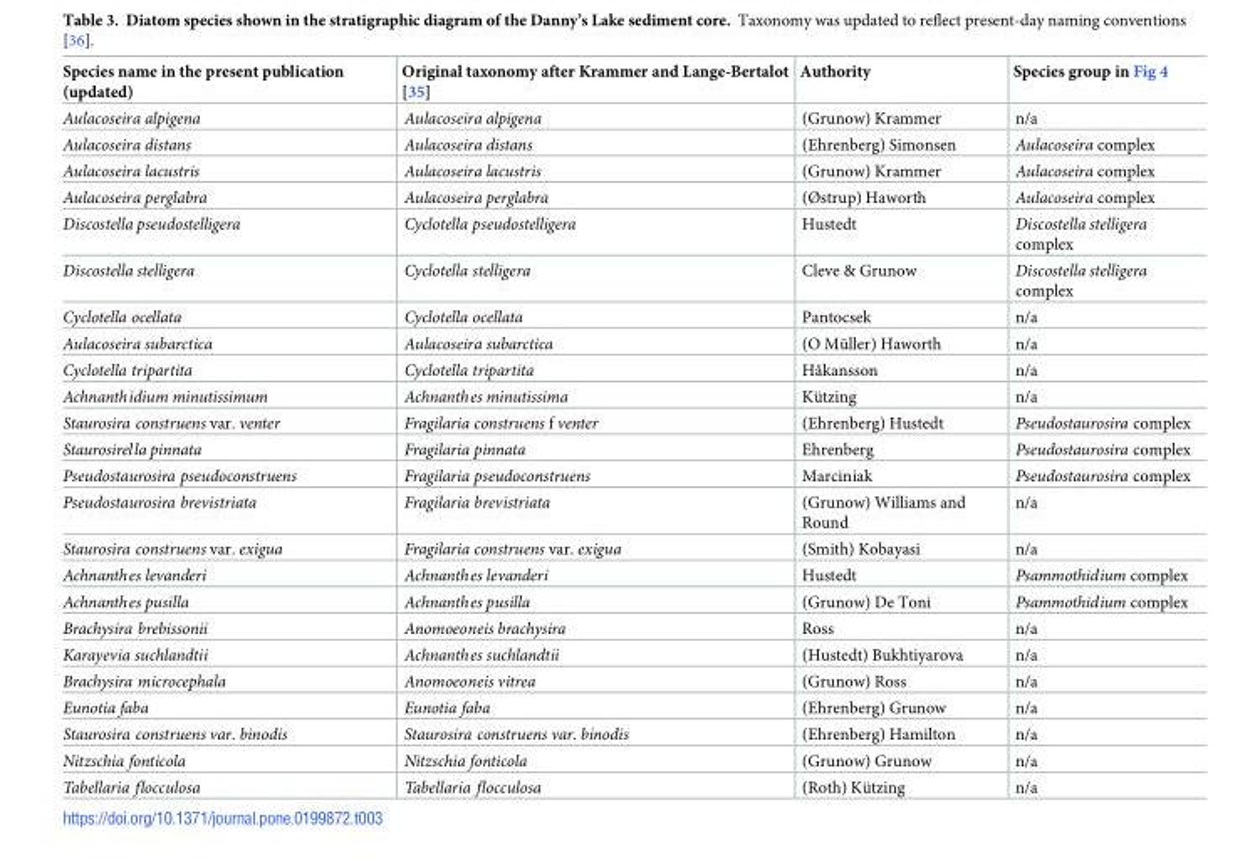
<table><thead><tr><td>Species name in the present publication (updated)</td><td>Original taxonomy after Krammer and Lange-Bertalot [35]</td><td>Authority</td><td>Species group in Fig 4</td></tr></thead><tbody><tr><td>Aulacoseira alpigena</td><td>Aulacoseira alpigena</td><td>(Grunow) Krammer</td><td>n/a</td></tr><tr><td>Aulacoseira distans</td><td>Aulacoseira distans</td><td>(Ehrenberg) Simonsen</td><td>Aulacoseira complex</td></tr><tr><td>Aulacoseira lacustris</td><td>Aulacoseira lacustris</td><td>(Grunow) Krammer</td><td>Aulacoseira complex</td></tr><tr><td>Aulacoseira perglabra</td><td>Aulacoseira perglabra</td><td>(Østrup) Haworth</td><td>Aulacoseira complex</td></tr><tr><td>Discostella pseudostelligera</td><td>Cyclotella pseudostelligera</td><td>Hustedt</td><td>Discostella stelligera complex</td></tr><tr><td>Discostella stelligera</td><td>Cyclotella stelligera</td><td>Cleve &amp; Grunow</td><td>Discostella stelligera complex</td></tr><tr><td>Cyclotella ocellata</td><td>Cyclotella ocellata</td><td>Pantocsek</td><td>n/a</td></tr><tr><td>Aulacoseira subarctica</td><td>Aulacoseira subarctica</td><td>(O Mu¨ller) Haworth</td><td>n/a</td></tr><tr><td>Cyclotella tripartita</td><td>Cyclotella tripartita</td><td>Håkansson</td><td>n/a</td></tr><tr><td>Achnanthidium minutissimum</td><td>Achnanthes minutissima</td><td>Ku¨tzing</td><td>n/a</td></tr><tr><td>Staurosira construens var. venter</td><td>Fragilaria construens f venter</td><td>(Ehrenberg) Hustedt</td><td>Pseudostaurosira complex</td></tr><tr><td>Staurosirella pinnata</td><td>Fragilaria pinnata</td><td>Ehrenberg</td><td>Pseudostaurosira complex</td></tr><tr><td>Pseudostaurosira pseudoconstruens</td><td>Fragilaria pseudoconstruens</td><td>Marciniak</td><td>Pseudostaurosira complex</td></tr><tr><td>Pseudostaurosira brevistriata</td><td>Fragilaria brevistriata</td><td>(Grunow) Williams and Round</td><td>n/a</td></tr><tr><td>Staurosira construens var. exigua</td><td>Fragilaria construens var. exigua</td><td>(Smith) Kobayasi</td><td>n/a</td></tr><tr><td>Achnanthes levanderi</td><td>Achnanthes levanderi</td><td>Hustedt</td><td>Psammothidium complex</td></tr><tr><td>Achnanthes pusilla</td><td>Achnanthes pusilla</td><td>(Grunow) De Toni</td><td>Psammothidium complex</td></tr><tr><td>Brachysira brebissonii</td><td>Anomoeoneis brachysira</td><td>Ross</td><td>n/a</td></tr><tr><td>Karayevia suchlandtii</td><td>Achnanthes suchlandtii</td><td>(Hustedt) Bukhtiyarova</td><td>n/a</td></tr><tr><td>Brachysira microcephala</td><td>Anomoeoneis vitrea</td><td>(Grunow) Ross</td><td>n/a</td></tr><tr><td>Eunotia faba</td><td>Eunotia faba</td><td>(Ehrenberg) Grunow</td><td>n/a</td></tr><tr><td>Staurosira construens var. binodis</td><td>Staurosira construens var. binodis</td><td>(Ehrenberg) Hamilton</td><td>n/a</td></tr><tr><td>Nitzschia fonticola</td><td>Nitzschia fonticola</td><td>(Grunow) Grunow</td><td>n/a</td></tr><tr><td>Tabellaria flocculosa</td><td>Tabellaria flocculosa</td><td>(Roth) Ku¨tzing</td><td>n/a</td></tr></tbody></table>